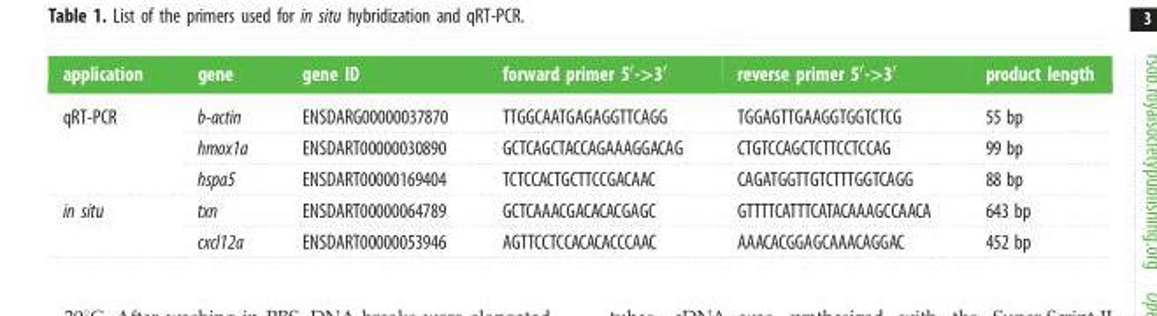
<table><thead><tr><td>application</td><td>gene</td><td>gene ID</td><td>forward primer 5′-&gt;3′</td><td>reverse primer 5′-&gt;3′</td><td>product length</td></tr></thead><tbody><tr><td rowspan="3">qRT-PCR</td><td>b-actin</td><td>ENSDARG00000037870</td><td>TTGGCAATGAGAGGTTCAGG</td><td>TGGAGTTGAAGGTGGTCTCG</td><td>55 bp</td></tr><tr><td>hmox1a</td><td>ENSDART00000030890</td><td>GCTCAGCTACCAGAAAGGACAG</td><td>CTGTCCAGCTCTTCCTCCAG</td><td>99 bp</td></tr><tr><td>hspa5</td><td>ENSDART00000169404</td><td>TCTCCACTGCTTCCGACAAC</td><td>CAGATGGTTGTCTTTGGTCAGG</td><td>88 bp</td></tr><tr><td rowspan="2">in situ</td><td>txn</td><td>ENSDART00000064789</td><td>GCTCAAACGACACACGAGC</td><td>GTTTTCATTTCATACAAAGCCAACA</td><td>643 bp</td></tr><tr><td>cxcl12a</td><td>ENSDART00000053946</td><td>AGTTCCTCCACACACCCAAC</td><td>AAACACGGAGCAAACAGGAC</td><td>452 bp</td></tr></tbody></table>